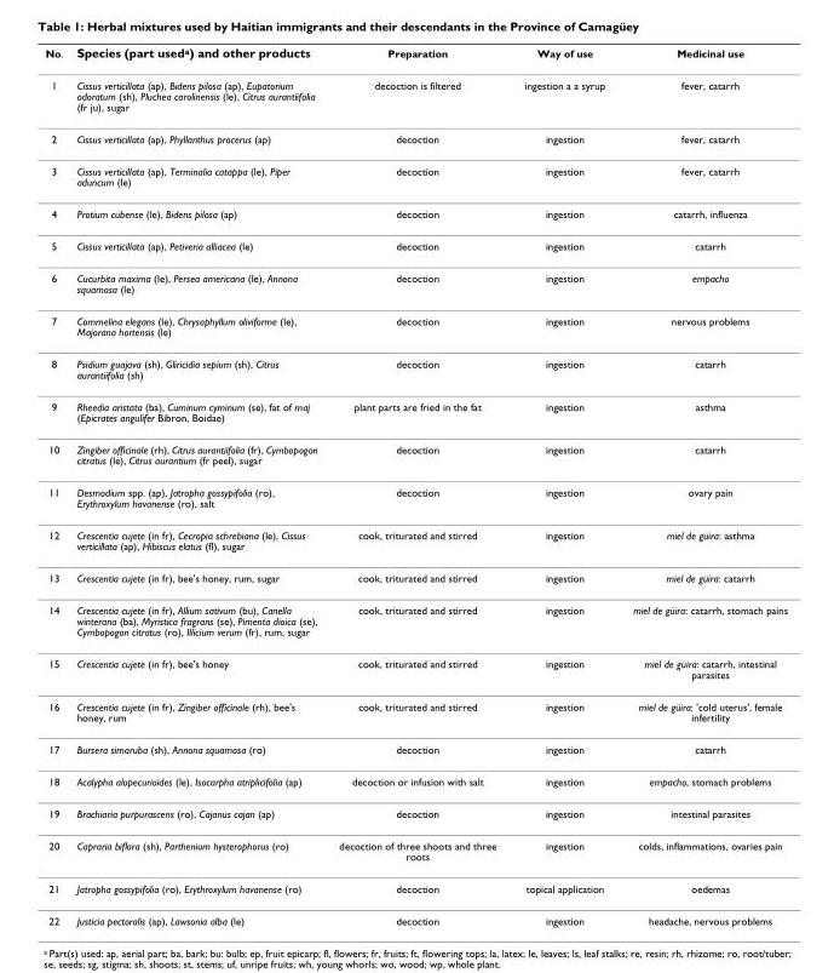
<table><thead><tr><td>No.</td><td>Species (part used<sup>a</sup>) and other products</td><td>Preparation</td><td>Way of use</td><td>Medicinal use</td></tr></thead><tbody><tr><td>1</td><td>Cissus verticillata (ap), Bidens pilosa (ap), Eupatorium odoratum (sh), Pluchea carolinensis (le), Citrus aurantiifolia (fr ju), sugar</td><td>decoction is filtered</td><td>ingestion a a syrup</td><td>fever, catarrh</td></tr><tr><td>2</td><td>Cissus verticillata (ap), Phyllanthus procerus (ap)</td><td>decoction</td><td>ingestion</td><td>fever, catarrh</td></tr><tr><td>3</td><td>Cissus verticillata (ap), Terminalia catappa (le), Piper aduncum (le)</td><td>decoction</td><td>ingestion</td><td>fever, catarrh</td></tr><tr><td>4</td><td>Protium cubense (le), Bidens pilosa (ap)</td><td>decoction</td><td>ingestion</td><td>catarrh, influenza</td></tr><tr><td>5</td><td>Cissus verticillata (ap), Petiveria alliacea (le)</td><td>decoction</td><td>ingestion</td><td>catarrh</td></tr><tr><td>6</td><td>Cucurbita maxima (le), Persea americana (le), Annona squamosa (le)</td><td>decoction</td><td>ingestion</td><td>empacho</td></tr><tr><td>7</td><td>Commelina elegans (le), Chrysophyllum oliviforme (le), Majorana hortensis (le)</td><td>decoction</td><td>ingestion</td><td>nervous problems</td></tr><tr><td>8</td><td>Psidium guajava (sh), Gliricidia sepium (sh), Citrus aurantiifolia (sh)</td><td>decoction</td><td>ingestion</td><td>catarrh</td></tr><tr><td>9</td><td>Rheedia aristata (ba), Cuminum cyminum (se), fat of maj (Epicrates angulifer Bibron, Boidae)</td><td>plant parts are fried in the fat</td><td>ingestion</td><td>asthma</td></tr><tr><td>10</td><td>Zingiber officinale (rh), Citrus aurantiifolia (fr), Cymbopogon citratus (le), Citrus aurantium (fr peel), sugar</td><td>decoction</td><td>ingestion</td><td>catarrh</td></tr><tr><td>11</td><td>Desmodium spp. (ap), Jatropha gossypifolia (ro), Erythroxylum havanense (ro), salt</td><td>decoction</td><td>ingestion</td><td>ovary pain</td></tr><tr><td>12</td><td>Crescentia cujete (in fr), Cecropia schrebiana (le), Cissus verticillata (ap), Hibiscus elatus (fl), sugar</td><td>cook, triturated and stirred</td><td>ingestion</td><td>miel de güira: asthma</td></tr><tr><td>13</td><td>Crescentia cujete (in fr), bee&#x27;s honey, rum, sugar</td><td>cook, triturated and stirred</td><td>ingestion</td><td>miel de güira: catarrh</td></tr><tr><td>14</td><td>Crescentia cujete (in fr), Allium sativum (bu), Canella winterana (ba), Myristica fragrans (se), Pimenta dioica (se), Cymbopogon citratus (ro), Illicium verum (fr), rum, sugar</td><td>cook, triturated and stirred</td><td>ingestion</td><td>miel de güira: catarrh, stomach pains</td></tr><tr><td>15</td><td>Crescentia cujete (in fr), bee&#x27;s honey</td><td>cook, triturated and stirred</td><td>ingestion</td><td>miel de güira: catarrh, intestinal parasites</td></tr><tr><td>16</td><td>Crescentia cujete (in fr), Zingiber officinale (rh), bee&#x27;s honey, rum</td><td>cook, triturated and stirred</td><td>ingestion</td><td>miel de güira: &#x27;cold uterus&#x27;, female infertility</td></tr><tr><td>17</td><td>Bursera simaruba (sh), Annona squamosa (ro)</td><td>decoction</td><td>ingestion</td><td>catarrh</td></tr><tr><td>18</td><td>Acalypha alopecurioides (le), Isocarpha atriplicifolia (ap)</td><td>decoction or infusion with salt</td><td>ingestion</td><td>empacho, stomach problems</td></tr><tr><td>19</td><td>Brachiaria purpurascens (ro), Cajanus cajan (ap)</td><td>decoction</td><td>ingestion</td><td>intestinal parasites</td></tr><tr><td>20</td><td>Capraria biflora (sh), Parthenium hysterophorus (ro)</td><td>decoction of three shoots and three roots</td><td>ingestion</td><td>colds, inflammations, ovaries pain</td></tr><tr><td>21</td><td>Jatropha gossypifolia (ro), Erythroxylum havanense (ro)</td><td>decoction</td><td>topical application</td><td>oedemas</td></tr><tr><td>22</td><td>Justicia pectoralis (ap), Lawsonia alba (le)</td><td>decoction</td><td>ingestion</td><td>headache, nervous problems</td></tr></tbody></table>